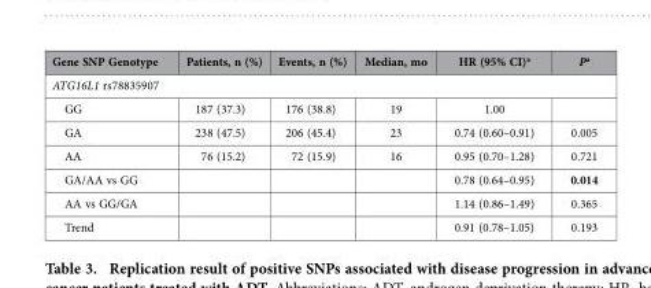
<table><thead><tr><td>Gene SNP Genotype</td><td>Patients, n (%)</td><td>Events, n (%)</td><td>Median, mo</td><td>HR (95% CI)<sup>a</sup></td><td>P<sup>a</sup></td></tr></thead><tbody><tr><td colspan="6">ATG16L1 rs78835907</td></tr><tr><td>GG</td><td>187 (37.3)</td><td>176 (38.8)</td><td>19</td><td>1.00</td><td></td></tr><tr><td>GA</td><td>238 (47.5)</td><td>206 (45.4)</td><td>23</td><td>0.74 (0.60–0.91)</td><td>0.005</td></tr><tr><td>AA</td><td>76 (15.2)</td><td>72 (15.9)</td><td>16</td><td>0.95 (0.70–1.28)</td><td>0.721</td></tr><tr><td>GA/AA vs GG</td><td></td><td></td><td></td><td>0.78 (0.64–0.95)</td><td>0.014</td></tr><tr><td>AA vs GG/GA</td><td></td><td></td><td></td><td>1.14 (0.86–1.49)</td><td>0.365</td></tr><tr><td>Trend</td><td></td><td></td><td></td><td>0.91 (0.78–1.05)</td><td>0.193</td></tr></tbody></table>